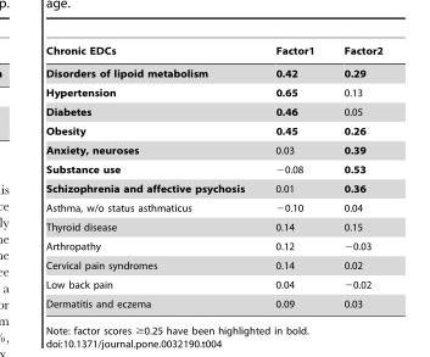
<table><thead><tr><td>Chronic EDCs</td><td>Factor1</td><td>Factor2</td></tr></thead><tbody><tr><td>Disorders of lipoid metabolism</td><td>0.42</td><td>0.29</td></tr><tr><td>Hypertension</td><td>0.65</td><td>0.13</td></tr><tr><td>Diabetes</td><td>0.46</td><td>0.05</td></tr><tr><td>Obesity</td><td>0.45</td><td>0.26</td></tr><tr><td>Anxiety, neuroses</td><td>0.03</td><td>0.39</td></tr><tr><td>Substance use</td><td>−0.08</td><td>0.53</td></tr><tr><td>Schizophrenia and affective psychosis</td><td>0.01</td><td>0.36</td></tr><tr><td>Asthma, w/o status asthmaticus</td><td>−0.10</td><td>0.04</td></tr><tr><td>Thyroid disease</td><td>0.14</td><td>0.15</td></tr><tr><td>Arthropathy</td><td>0.12</td><td>−0.03</td></tr><tr><td>Cervical pain syndromes</td><td>0.14</td><td>0.02</td></tr><tr><td>Low back pain</td><td>0.04</td><td>−0.02</td></tr><tr><td>Dermatitis and eczema</td><td>0.09</td><td>0.03</td></tr></tbody></table>